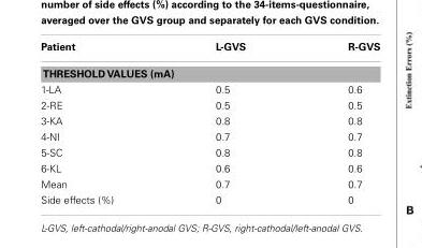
<table><thead><tr><td>Patient</td><td>L-GVS</td><td>R-GVS</td></tr></thead><tbody><tr><td colspan="3">THRESHOLD VALUES (mA)</td></tr><tr><td>1-LA</td><td>0.5</td><td>0.6</td></tr><tr><td>2-RE</td><td>0.5</td><td>0.5</td></tr><tr><td>3-KA</td><td>0.8</td><td>0.8</td></tr><tr><td>4-NI</td><td>0.7</td><td>0.7</td></tr><tr><td>5-SC</td><td>0.8</td><td>0.8</td></tr><tr><td>6-KL</td><td>0.6</td><td>0.6</td></tr><tr><td>Mean</td><td>0.7</td><td>0.7</td></tr><tr><td>Side effects (%)</td><td>0</td><td>0</td></tr></tbody></table>